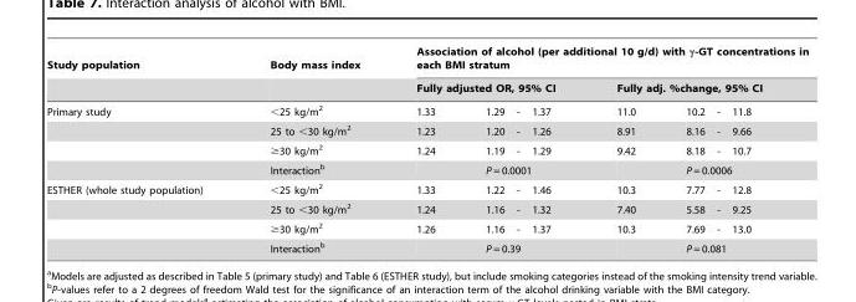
<table><thead><tr><td rowspan="3">Study population Primary study</td><td rowspan="3">Body mass index &lt;25 kg/m<sup>2</sup></td><td colspan="8">Association of alcohol (per additional 10 g/d) with γ-GT concentrations in each BMI stratum</td></tr><tr><td colspan="4">Fully adjusted OR, 95% CI</td><td colspan="4">Fully adj. %change, 95% CI</td></tr><tr><td>1.33</td><td>1.29</td><td>-</td><td>1.37</td><td>11.0</td><td>10.2</td><td>-</td><td>11.8</td></tr></thead><tbody><tr><td></td><td>25 to &lt;30 kg/m<sup>2</sup></td><td>1.23</td><td>1.20</td><td>-</td><td>1.26</td><td>8.91</td><td>8.16</td><td>-</td><td>9.66</td></tr><tr><td></td><td>≥30 kg/m<sup>2</sup></td><td>1.24</td><td>1.19</td><td>-</td><td>1.29</td><td>9.42</td><td>8.18</td><td>-</td><td>10.7</td></tr><tr><td></td><td>Interaction<sup>b</sup></td><td></td><td colspan="3">P = 0.0001</td><td></td><td colspan="3">P = 0.0006</td></tr><tr><td rowspan="4">ESTHER (whole study population)</td><td>&lt;25 kg/m<sup>2</sup></td><td>1.33</td><td>1.22</td><td>-</td><td>1.46</td><td>10.3</td><td>7.77</td><td>-</td><td>12.8</td></tr><tr><td>25 to &lt;30 kg/m<sup>2</sup></td><td>1.24</td><td>1.16</td><td>-</td><td>1.32</td><td>7.40</td><td>5.58</td><td>-</td><td>9.25</td></tr><tr><td>≥30 kg/m<sup>2</sup></td><td>1.26</td><td>1.16</td><td>-</td><td>1.37</td><td>10.3</td><td>7.69</td><td>-</td><td>13.0</td></tr><tr><td>Interaction<sup>b</sup></td><td></td><td colspan="3">P = 0.39</td><td></td><td colspan="3">P = 0.081</td></tr></tbody></table>